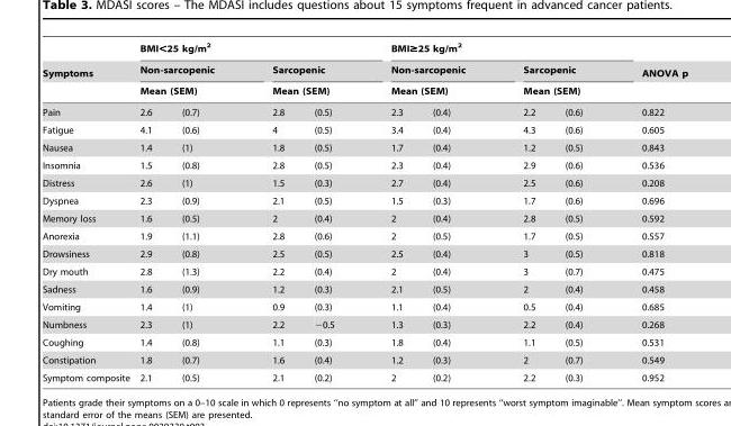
<table><thead><tr><td rowspan="4">Symptoms Pain</td><td colspan="4">BMI&lt;25 kg/m<sup>2</sup></td><td colspan="4">BMI≥25 kg/m<sup>2</sup></td><td rowspan="4">ANOVA p 0.822</td></tr><tr><td rowspan="2" colspan="2">Non-sarcopenic Mean (SEM)</td><td rowspan="2" colspan="2">Sarcopenic Mean (SEM)</td><td rowspan="2" colspan="2">Non-sarcopenic Mean (SEM)</td><td rowspan="2" colspan="2">Sarcopenic Mean (SEM)</td></tr><tr></tr><tr><td>2.6</td><td>(0.7)</td><td>2.8</td><td>(0.5)</td><td>2.3</td><td>(0.4)</td><td>2.2</td><td>(0.6)</td></tr></thead><tbody><tr><td>Fatigue</td><td>4.1</td><td>(0.6)</td><td>4</td><td>(0.5)</td><td>3.4</td><td>(0.4)</td><td>4.3</td><td>(0.6)</td><td>0.605</td></tr><tr><td>Nausea</td><td>1.4</td><td>(1)</td><td>1.8</td><td>(0.5)</td><td>1.7</td><td>(0.4)</td><td>1.2</td><td>(0.5)</td><td>0.843</td></tr><tr><td>Insomnia</td><td>1.5</td><td>(0.8)</td><td>2.8</td><td>(0.5)</td><td>2.3</td><td>(0.4)</td><td>2.9</td><td>(0.6)</td><td>0.536</td></tr><tr><td>Distress</td><td>2.6</td><td>(1)</td><td>1.5</td><td>(0.3)</td><td>2.7</td><td>(0.4)</td><td>2.5</td><td>(0.6)</td><td>0.208</td></tr><tr><td>Dyspnea</td><td>2.3</td><td>(0.9)</td><td>2.1</td><td>(0.5)</td><td>1.5</td><td>(0.3)</td><td>1.7</td><td>(0.6)</td><td>0.696</td></tr><tr><td>Memory loss</td><td>1.6</td><td>(0.5)</td><td>2</td><td>(0.4)</td><td>2</td><td>(0.4)</td><td>2.8</td><td>(0.5)</td><td>0.592</td></tr><tr><td>Anorexia</td><td>1.9</td><td>(1.1)</td><td>2.8</td><td>(0.6)</td><td>2</td><td>(0.5)</td><td>1.7</td><td>(0.5)</td><td>0.557</td></tr><tr><td>Drowsiness</td><td>2.9</td><td>(0.8)</td><td>2.5</td><td>(0.5)</td><td>2.5</td><td>(0.4)</td><td>3</td><td>(0.5)</td><td>0.818</td></tr><tr><td>Dry mouth</td><td>2.8</td><td>(1.3)</td><td>2.2</td><td>(0.4)</td><td>2</td><td>(0.4)</td><td>3</td><td>(0.7)</td><td>0.475</td></tr><tr><td>Sadness</td><td>1.6</td><td>(0.9)</td><td>1.2</td><td>(0.3)</td><td>2.1</td><td>(0.5)</td><td>2</td><td>(0.4)</td><td>0.458</td></tr><tr><td>Vomiting</td><td>1.4</td><td>(1)</td><td>0.9</td><td>(0.3)</td><td>1.1</td><td>(0.4)</td><td>0.5</td><td>(0.4)</td><td>0.685</td></tr><tr><td>Numbness</td><td>2.3</td><td>(1)</td><td>2.2</td><td>−0.5</td><td>1.3</td><td>(0.3)</td><td>2.2</td><td>(0.4)</td><td>0.268</td></tr><tr><td>Coughing</td><td>1.4</td><td>(0.8)</td><td>1.1</td><td>(0.3)</td><td>1.8</td><td>(0.4)</td><td>1.1</td><td>(0.5)</td><td>0.531</td></tr><tr><td>Constipation</td><td>1.8</td><td>(0.7)</td><td>1.6</td><td>(0.4)</td><td>1.2</td><td>(0.3)</td><td>2</td><td>(0.7)</td><td>0.549</td></tr><tr><td>Symptom composite</td><td>2.1</td><td>(0.5)</td><td>2.1</td><td>(0.2)</td><td>2</td><td>(0.2)</td><td>2.2</td><td>(0.3)</td><td>0.952</td></tr></tbody></table>